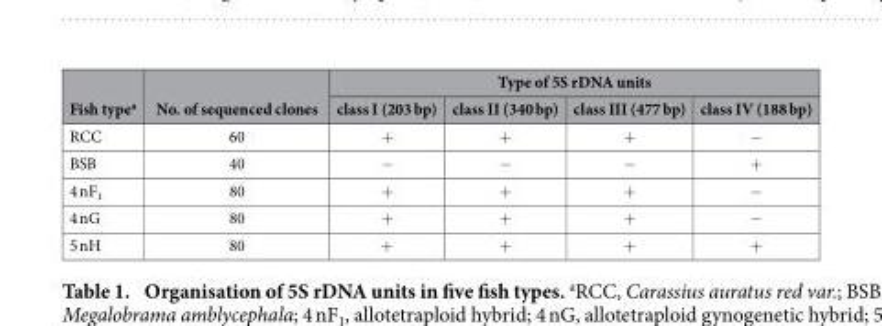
<table><thead><tr><td rowspan="2">Fish type<sup>a</sup></td><td rowspan="2">No. of sequenced clones</td><td colspan="4">Type of 5S rDNA units</td></tr><tr><td>class I (203 bp)</td><td>class II (340 bp)</td><td>class III (477 bp)</td><td>class IV (188 bp)</td></tr></thead><tbody><tr><td>RCC</td><td>60</td><td>+</td><td>+</td><td>+</td><td>−</td></tr><tr><td>BSB</td><td>40</td><td>−</td><td>−</td><td>−</td><td>+</td></tr><tr><td>4 nF<sub>1</sub></td><td>80</td><td>+</td><td>+</td><td>+</td><td>−</td></tr><tr><td>4 nG</td><td>80</td><td>+</td><td>+</td><td>+</td><td>−</td></tr><tr><td>5 nH</td><td>80</td><td>+</td><td>+</td><td>+</td><td>+</td></tr></tbody></table>